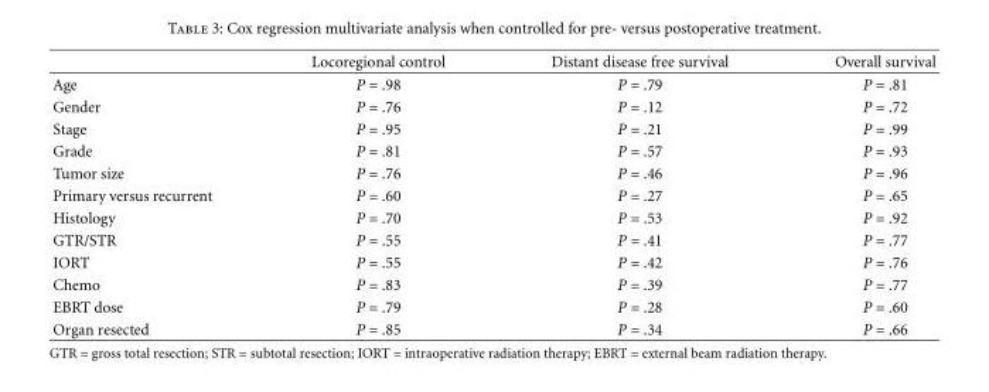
<table><thead><tr><td></td><td>Locoregional control</td><td>Distant disease free survival</td><td>Overall survival</td></tr></thead><tbody><tr><td>Age</td><td>P = .98</td><td>P = .79</td><td>P = .81</td></tr><tr><td>Gender</td><td>P = .76</td><td>P = .12</td><td>P = .72</td></tr><tr><td>Stage</td><td>P = .95</td><td>P = .21</td><td>P = .99</td></tr><tr><td>Grade</td><td>P = .81</td><td>P = .57</td><td>P = .93</td></tr><tr><td>Tumor size</td><td>P = .76</td><td>P = .46</td><td>P = .96</td></tr><tr><td>Primary versus recurrent</td><td>P = .60</td><td>P = .27</td><td>P = .65</td></tr><tr><td>Histology</td><td>P = .70</td><td>P = .53</td><td>P = .92</td></tr><tr><td>GTR/STR</td><td>P = .55</td><td>P = .41</td><td>P = .77</td></tr><tr><td>IORT</td><td>P = .55</td><td>P = .42</td><td>P = .76</td></tr><tr><td>Chemo</td><td>P = .83</td><td>P = .39</td><td>P = .77</td></tr><tr><td>EBRT dose</td><td>P = .79</td><td>P = .28</td><td>P = .60</td></tr><tr><td>Organ resected</td><td>P = .85</td><td>P = .34</td><td>P = .66</td></tr></tbody></table>